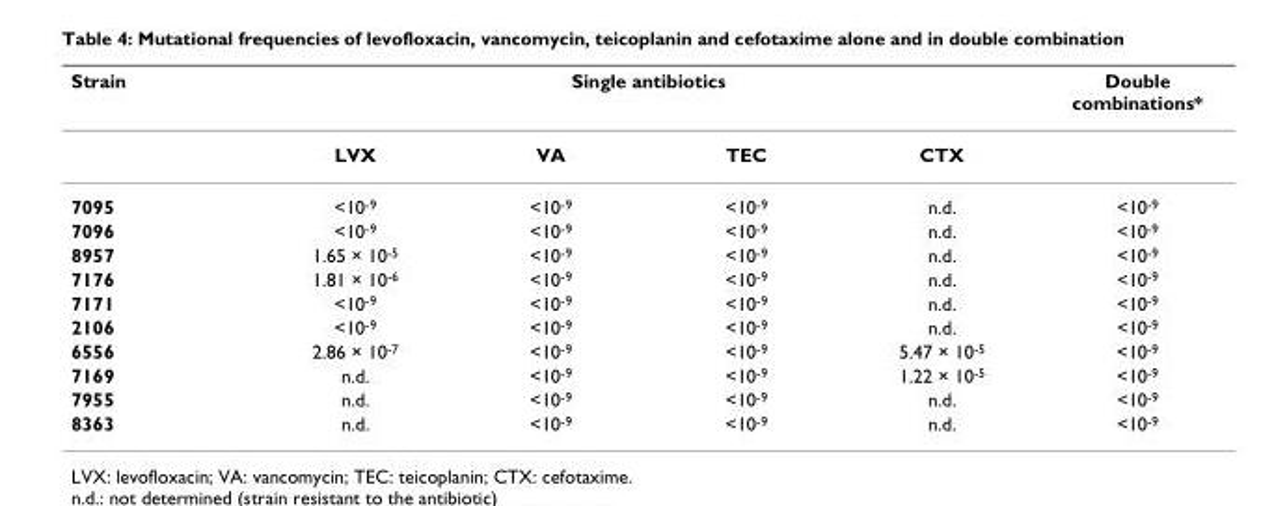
<table><thead><tr><td rowspan="2">Strain</td><td colspan="4">Single antibiotics</td><td rowspan="2">Double combinations*</td></tr><tr><td>LVX</td><td>VA</td><td>TEC</td><td>CTX</td></tr></thead><tbody><tr><td>7095</td><td>&lt;10<sup>-9</sup></td><td>&lt;10<sup>-9</sup></td><td>&lt;10<sup>-9</sup></td><td>n.d.</td><td>&lt;10<sup>-9</sup></td></tr><tr><td>7096</td><td>&lt;10<sup>-9</sup></td><td>&lt;10<sup>-9</sup></td><td>&lt;10<sup>-9</sup></td><td>n.d.</td><td>&lt;10<sup>-9</sup></td></tr><tr><td>8957</td><td>1.65 × 10<sup>-5</sup></td><td>&lt;10<sup>-9</sup></td><td>&lt;10<sup>-9</sup></td><td>n.d.</td><td>&lt;10<sup>-9</sup></td></tr><tr><td>7176</td><td>1.81 × 10<sup>-6</sup></td><td>&lt;10<sup>-9</sup></td><td>&lt;10<sup>-9</sup></td><td>n.d.</td><td>&lt;10<sup>-9</sup></td></tr><tr><td>7171</td><td>&lt;10<sup>-9</sup></td><td>&lt;10<sup>-9</sup></td><td>&lt;10<sup>-9</sup></td><td>n.d.</td><td>&lt;10<sup>-9</sup></td></tr><tr><td>2106</td><td>&lt;10<sup>-9</sup></td><td>&lt;10<sup>-9</sup></td><td>&lt;10<sup>-9</sup></td><td>n.d.</td><td>&lt;10<sup>-9</sup></td></tr><tr><td>6556</td><td>2.86 × 10<sup>-7</sup></td><td>&lt;10<sup>-9</sup></td><td>&lt;10<sup>-9</sup></td><td>5.47 × 10<sup>-5</sup></td><td>&lt;10<sup>-9</sup></td></tr><tr><td>7169</td><td>n.d.</td><td>&lt;10<sup>-9</sup></td><td>&lt;10<sup>-9</sup></td><td>1.22 × 10<sup>-5</sup></td><td>&lt;10<sup>-9</sup></td></tr><tr><td>7955</td><td>n.d.</td><td>&lt;10<sup>-9</sup></td><td>&lt;10<sup>-9</sup></td><td>n.d.</td><td>&lt;10<sup>-9</sup></td></tr><tr><td>8363</td><td>n.d.</td><td>&lt;10<sup>-9</sup></td><td>&lt;10<sup>-9</sup></td><td>n.d.</td><td>&lt;10<sup>-9</sup></td></tr></tbody></table>